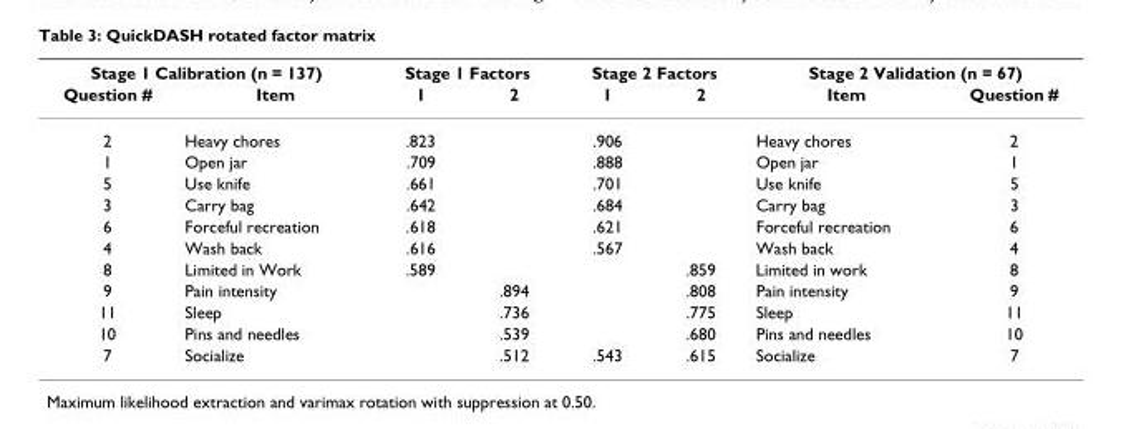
<table><thead><tr><td colspan="2">Stage 1 Calibration (n = 137)</td><td colspan="2">Stage 1 Factors</td><td colspan="2">Stage 2 Factors</td><td colspan="2">Stage 2 Validation (n = 67)</td></tr><tr><td>Question #</td><td>Item</td><td>1</td><td>2</td><td>1</td><td>2</td><td>Item</td><td>Question #</td></tr></thead><tbody><tr><td>2</td><td>Heavy chores</td><td>.823</td><td></td><td>.906</td><td></td><td>Heavy chores</td><td>2</td></tr><tr><td>1</td><td>Open jar</td><td>.709</td><td></td><td>.888</td><td></td><td>Open jar</td><td>1</td></tr><tr><td>5</td><td>Use knife</td><td>.661</td><td></td><td>.701</td><td></td><td>Use knife</td><td>5</td></tr><tr><td>3</td><td>Carry bag</td><td>.642</td><td></td><td>.684</td><td></td><td>Carry bag</td><td>3</td></tr><tr><td>6</td><td>Forceful recreation</td><td>.618</td><td></td><td>.621</td><td></td><td>Forceful recreation</td><td>6</td></tr><tr><td>4</td><td>Wash back</td><td>.616</td><td></td><td>.567</td><td></td><td>Wash back</td><td>4</td></tr><tr><td>8</td><td>Limited in Work</td><td>.589</td><td></td><td></td><td>.859</td><td>Limited in work</td><td>8</td></tr><tr><td>9</td><td>Pain intensity</td><td></td><td>.894</td><td></td><td>.808</td><td>Pain intensity</td><td>9</td></tr><tr><td>11</td><td>Sleep</td><td></td><td>.736</td><td></td><td>.775</td><td>Sleep</td><td>11</td></tr><tr><td>10</td><td>Pins and needles</td><td></td><td>.539</td><td></td><td>.680</td><td>Pins and needles</td><td>10</td></tr><tr><td>7</td><td>Socialize</td><td></td><td>.512</td><td>.543</td><td>.615</td><td>Socialize</td><td>7</td></tr></tbody></table>